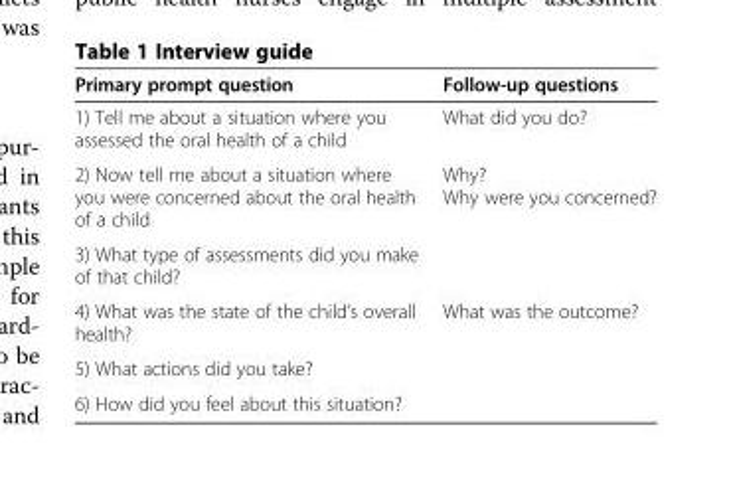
<table><thead><tr><td>Primary prompt question</td><td>Follow-up questions</td></tr></thead><tbody><tr><td>1) Tell me about a situation where you assessed the oral health of a child</td><td>What did you do?</td></tr><tr><td>2) Now tell me about a situation where you were concerned about the oral health of a child</td><td>Why? Why were you concerned?</td></tr><tr><td colspan="2">3) What type of assessments did you make of that child?</td></tr><tr><td>4) What was the state of the child’s overall health?</td><td>What was the outcome?</td></tr><tr><td colspan="2">5) What actions did you take?</td></tr><tr><td>6) How did you feel about this situation?</td><td></td></tr></tbody></table>